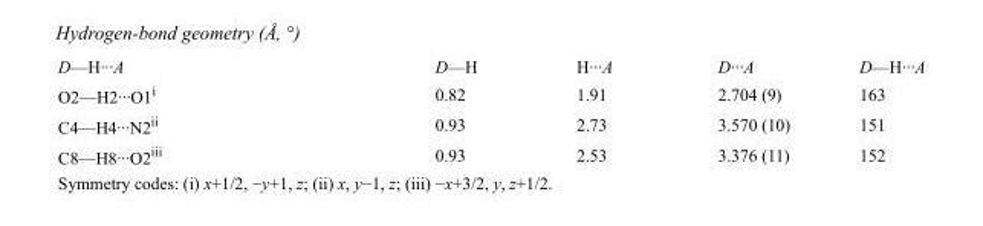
<table><tbody><tr><td>D—H···A</td><td>D—H</td><td>H···A</td><td>D···A</td><td>D—H···A</td></tr><tr><td>O2—H2···O1<sup>i</sup></td><td>0.82</td><td>1.91</td><td>2.704 (9)</td><td>163</td></tr><tr><td>C4—H4···N2<sup>ii</sup></td><td>0.93</td><td>2.73</td><td>3.570 (10)</td><td>151</td></tr><tr><td>C8—H8···O2<sup>iii</sup></td><td>0.93</td><td>2.53</td><td>3.376 (11)</td><td>152</td></tr></tbody></table>